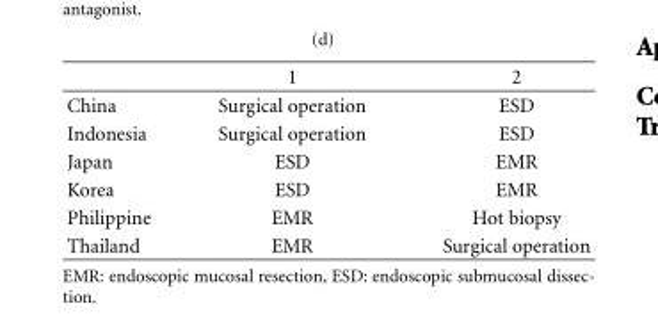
<table><thead><tr><td></td><td>1</td><td>2</td></tr></thead><tbody><tr><td>China</td><td>Surgical operation</td><td>ESD</td></tr><tr><td>Indonesia</td><td>Surgical operation</td><td>ESD</td></tr><tr><td>Japan</td><td>ESD</td><td>EMR</td></tr><tr><td>Korea</td><td>ESD</td><td>EMR</td></tr><tr><td>Philippine</td><td>EMR</td><td>Hot biopsy</td></tr><tr><td>Thailand</td><td>EMR</td><td>Surgical operation</td></tr></tbody></table>